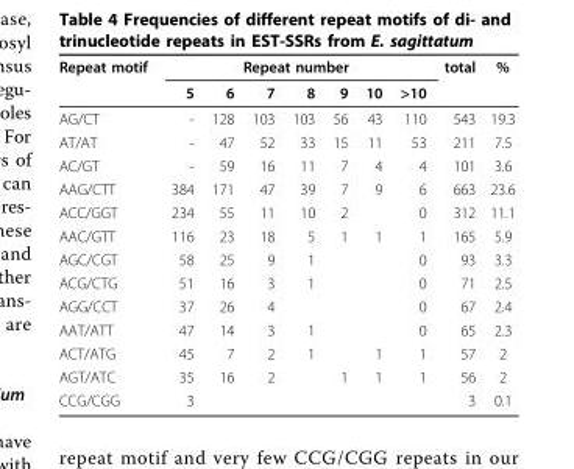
<table><thead><tr><td rowspan="2">Repeat motif</td><td colspan="7">Repeat number</td><td rowspan="2">total</td><td rowspan="2">%</td></tr><tr><td>5</td><td>6</td><td>7</td><td>8</td><td>9</td><td>10</td><td>&gt;10</td></tr></thead><tbody><tr><td>AG/CT</td><td>-</td><td>128</td><td>103</td><td>103</td><td>56</td><td>43</td><td>110</td><td>543</td><td>19.3</td></tr><tr><td>AT/AT</td><td>-</td><td>47</td><td>52</td><td>33</td><td>15</td><td>11</td><td>53</td><td>211</td><td>7.5</td></tr><tr><td>AC/GT</td><td>-</td><td>59</td><td>16</td><td>11</td><td>7</td><td>4</td><td>4</td><td>101</td><td>3.6</td></tr><tr><td>AAG/CTT</td><td>384</td><td>171</td><td>47</td><td>39</td><td>7</td><td>9</td><td>6</td><td>663</td><td>23.6</td></tr><tr><td>ACC/GGT</td><td>234</td><td>55</td><td>11</td><td>10</td><td>2</td><td></td><td>0</td><td>312</td><td>11.1</td></tr><tr><td>AAC/GTT</td><td>116</td><td>23</td><td>18</td><td>5</td><td>1</td><td>1</td><td>1</td><td>165</td><td>5.9</td></tr><tr><td>AGC/CGT</td><td>58</td><td>25</td><td>9</td><td>1</td><td></td><td></td><td>0</td><td>93</td><td>3.3</td></tr><tr><td>ACG/CTG</td><td>51</td><td>16</td><td>3</td><td>1</td><td></td><td></td><td>0</td><td>71</td><td>2.5</td></tr><tr><td>AGG/CCT</td><td>37</td><td>26</td><td>4</td><td></td><td></td><td></td><td>0</td><td>67</td><td>2.4</td></tr><tr><td>AAT/ATT</td><td>47</td><td>14</td><td>3</td><td>1</td><td></td><td></td><td>0</td><td>65</td><td>2.3</td></tr><tr><td>ACT/ATG</td><td>45</td><td>7</td><td>2</td><td>1</td><td></td><td>1</td><td>1</td><td>57</td><td>2</td></tr><tr><td>AGT/ATC</td><td>35</td><td>16</td><td>2</td><td></td><td>1</td><td>1</td><td>1</td><td>56</td><td>2</td></tr><tr><td>CCG/CGG</td><td>3</td><td></td><td></td><td></td><td></td><td></td><td></td><td>3</td><td>0.1</td></tr></tbody></table>